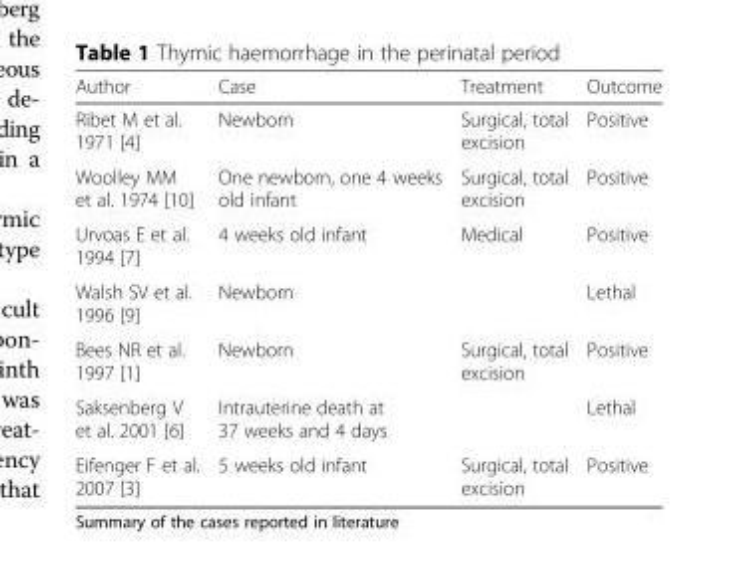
<table><thead><tr><td>Author</td><td>Case</td><td>Treatment</td><td>Outcome</td></tr></thead><tbody><tr><td>Ribet M et al. 1971 [4]</td><td>Newborn</td><td>Surgical, total excision</td><td>Positive</td></tr><tr><td>Woolley MM et al. 1974 [10]</td><td>One newborn, one 4 weeks old infant</td><td>Surgical, total excision</td><td>Positive</td></tr><tr><td>Urvoas E et al. 1994 [7]</td><td>4 weeks old infant</td><td>Medical</td><td>Positive</td></tr><tr><td>Walsh SV et al. 1996 [9]</td><td>Newborn</td><td></td><td>Lethal</td></tr><tr><td>Bees NR et al. 1997 [1]</td><td>Newborn</td><td>Surgical, total excision</td><td>Positive</td></tr><tr><td>Saksenberg V et al. 2001 [6]</td><td>Intrauterine death at 37 weeks and 4 days</td><td></td><td>Lethal</td></tr><tr><td>Eifenger F et al. 2007 [3]</td><td>5 weeks old infant</td><td>Surgical, total excision</td><td>Positive</td></tr></tbody></table>